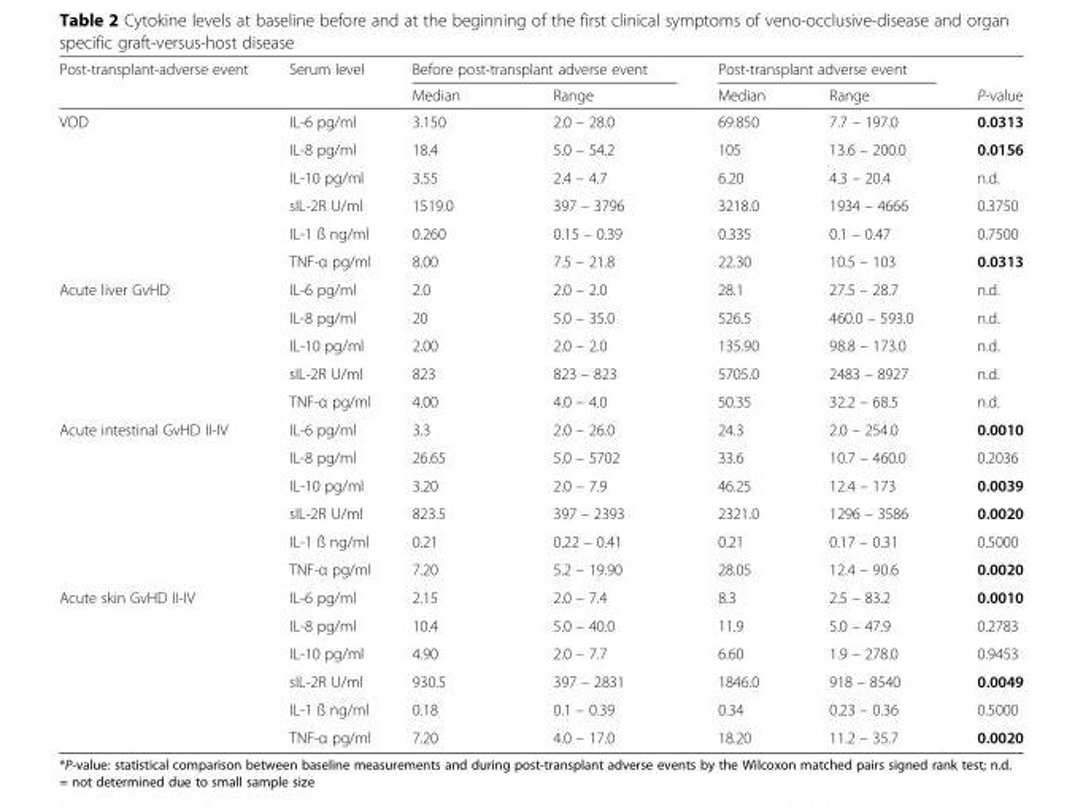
<table><thead><tr><td rowspan="2">Post-transplant-adverse event</td><td rowspan="2">Serum level</td><td colspan="2">Before post-transplant adverse event</td><td colspan="2">Post-transplant adverse event</td><td rowspan="2">P-value</td></tr><tr><td>Median</td><td>Range</td><td>Median</td><td>Range</td></tr></thead><tbody><tr><td rowspan="6">VOD</td><td>IL-6 pg/ml</td><td>3.150</td><td>2.0 – 28.0</td><td>69.850</td><td>7.7 – 197.0</td><td>0.0313</td></tr><tr><td>IL-8 pg/ml</td><td>18.4</td><td>5.0 – 54.2</td><td>105</td><td>13.6 – 200.0</td><td>0.0156</td></tr><tr><td>IL-10 pg/ml</td><td>3.55</td><td>2.4 – 4.7</td><td>6.20</td><td>4.3 – 20.4</td><td>n.d.</td></tr><tr><td>sIL-2R U/ml</td><td>1519.0</td><td>397 – 3796</td><td>3218.0</td><td>1934 – 4666</td><td>0.3750</td></tr><tr><td>IL-1 ß ng/ml</td><td>0.260</td><td>0.15 – 0.39</td><td>0.335</td><td>0.1 – 0.47</td><td>0.7500</td></tr><tr><td>TNF-α pg/ml</td><td>8.00</td><td>7.5 – 21.8</td><td>22.30</td><td>10.5 – 103</td><td>0.0313</td></tr><tr><td rowspan="5">Acute liver GvHD</td><td>IL-6 pg/ml</td><td>2.0</td><td>2.0 – 2.0</td><td>28.1</td><td>27.5 – 28.7</td><td>n.d.</td></tr><tr><td>IL-8 pg/ml</td><td>20</td><td>5.0 – 35.0</td><td>526.5</td><td>460.0 – 593.0</td><td>n.d.</td></tr><tr><td>IL-10 pg/ml</td><td>2.00</td><td>2.0 – 2.0</td><td>135.90</td><td>98.8 – 173.0</td><td>n.d.</td></tr><tr><td>sIL-2R U/ml</td><td>823</td><td>823 – 823</td><td>5705.0</td><td>2483 – 8927</td><td>n.d.</td></tr><tr><td>TNF-α pg/ml</td><td>4.00</td><td>4.0 – 4.0</td><td>50.35</td><td>32.2 – 68.5</td><td>n.d.</td></tr><tr><td rowspan="6">Acute intestinal GvHD II-IV</td><td>IL-6 pg/ml</td><td>3.3</td><td>2.0 – 26.0</td><td>24.3</td><td>2.0 – 254.0</td><td>0.0010</td></tr><tr><td>IL-8 pg/ml</td><td>26.65</td><td>5.0 – 5702</td><td>33.6</td><td>10.7 – 460.0</td><td>0.2036</td></tr><tr><td>IL-10 pg/ml</td><td>3.20</td><td>2.0 – 7.9</td><td>46.25</td><td>12.4 – 173</td><td>0.0039</td></tr><tr><td>sIL-2R U/ml</td><td>823.5</td><td>397 – 2393</td><td>2321.0</td><td>1296 – 3586</td><td>0.0020</td></tr><tr><td>IL-1 ß ng/ml</td><td>0.21</td><td>0.22 – 0.41</td><td>0.21</td><td>0.17 – 0.31</td><td>0.5000</td></tr><tr><td>TNF-α pg/ml</td><td>7.20</td><td>5.2 – 19.90</td><td>28.05</td><td>12.4 – 90.6</td><td>0.0020</td></tr><tr><td rowspan="6">Acute skin GvHD II-IV</td><td>IL-6 pg/ml</td><td>2.15</td><td>2.0 – 7.4</td><td>8.3</td><td>2.5 – 83.2</td><td>0.0010</td></tr><tr><td>IL-8 pg/ml</td><td>10.4</td><td>5.0 – 40.0</td><td>11.9</td><td>5.0 – 47.9</td><td>0.2783</td></tr><tr><td>IL-10 pg/ml</td><td>4.90</td><td>2.0 – 7.7</td><td>6.60</td><td>1.9 – 278.0</td><td>0.9453</td></tr><tr><td>sIL-2R U/ml</td><td>930.5</td><td>397 – 2831</td><td>1846.0</td><td>918 – 8540</td><td>0.0049</td></tr><tr><td>IL-1 ß ng/ml</td><td>0.18</td><td>0.1 – 0.39</td><td>0.34</td><td>0.23 – 0.36</td><td>0.5000</td></tr><tr><td>TNF-α pg/ml</td><td>7.20</td><td>4.0 – 17.0</td><td>18.20</td><td>11.2 – 35.7</td><td>0.0020</td></tr></tbody></table>